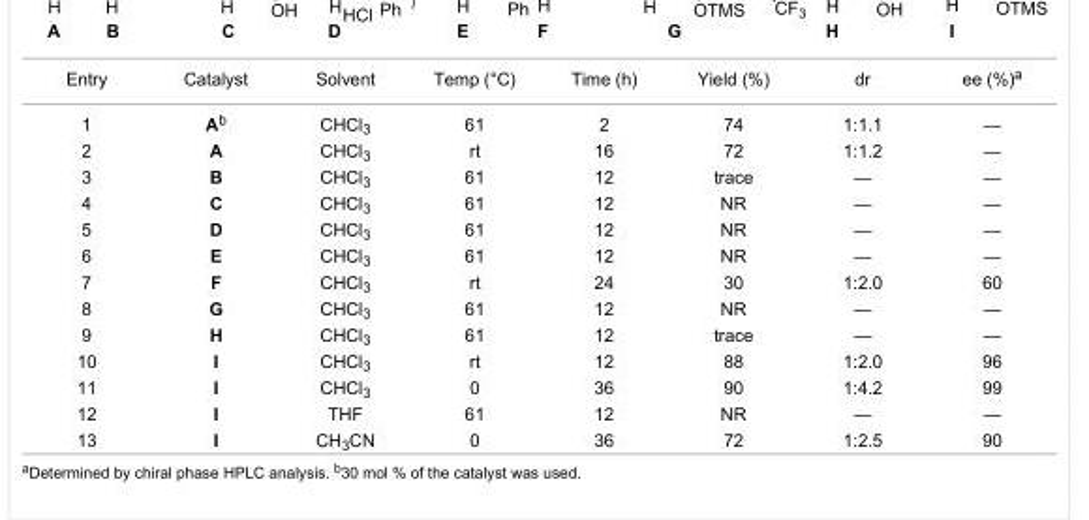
<table><tbody><tr><td>Entry</td><td>Catalyst</td><td>Solvent</td><td>Temp (°C)</td><td>Time (h)</td><td>Yield (%)</td><td>dr</td><td>ee (%)<sup>a</sup></td></tr><tr><td>1</td><td>A<sup>b</sup></td><td>CHCl<sub>3</sub></td><td>61</td><td>2</td><td>74</td><td>1:1.1</td><td>—</td></tr><tr><td>2</td><td>A</td><td>CHCl<sub>3</sub></td><td>rt</td><td>16</td><td>72</td><td>1:1.2</td><td>—</td></tr><tr><td>3</td><td>B</td><td>CHCl<sub>3</sub></td><td>61</td><td>12</td><td>trace</td><td>—</td><td>—</td></tr><tr><td>4</td><td>C</td><td>CHCl<sub>3</sub></td><td>61</td><td>12</td><td>NR</td><td>—</td><td>—</td></tr><tr><td>5</td><td>D</td><td>CHCl<sub>3</sub></td><td>61</td><td>12</td><td>NR</td><td>—</td><td>—</td></tr><tr><td>6</td><td>E</td><td>CHCl<sub>3</sub></td><td>61</td><td>12</td><td>NR</td><td>—</td><td>—</td></tr><tr><td>7</td><td>F</td><td>CHCl<sub>3</sub></td><td>rt</td><td>24</td><td>30</td><td>1:2.0</td><td>60</td></tr><tr><td>8</td><td>G</td><td>CHCl<sub>3</sub></td><td>61</td><td>12</td><td>NR</td><td>—</td><td>—</td></tr><tr><td>9</td><td>H</td><td>CHCl<sub>3</sub></td><td>61</td><td>12</td><td>trace</td><td>—</td><td>—</td></tr><tr><td>10</td><td>I</td><td>CHCl<sub>3</sub></td><td>rt</td><td>12</td><td>88</td><td>1:2.0</td><td>96</td></tr><tr><td>11</td><td>I</td><td>CHCl<sub>3</sub></td><td>0</td><td>36</td><td>90</td><td>1:4.2</td><td>99</td></tr><tr><td>12</td><td>I</td><td>THF</td><td>61</td><td>12</td><td>NR</td><td>—</td><td>—</td></tr><tr><td>13</td><td>I</td><td>CH<sub>3</sub>CN</td><td>0</td><td>36</td><td>72</td><td>1:2.5</td><td>90</td></tr></tbody></table>